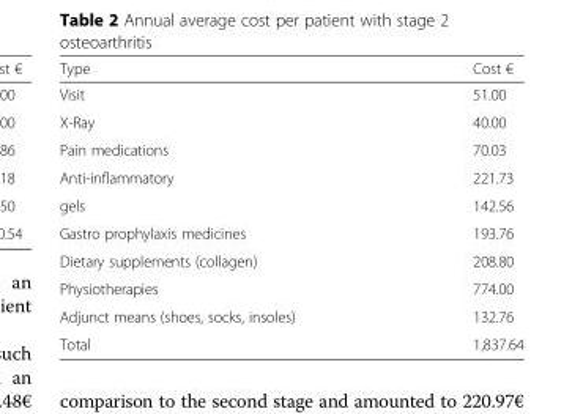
<table><thead><tr><td>Type</td><td>Cost €</td></tr></thead><tbody><tr><td>Visit</td><td>51.00</td></tr><tr><td>X-Ray</td><td>40.00</td></tr><tr><td>Pain medications</td><td>70.03</td></tr><tr><td>Anti-inflammatory</td><td>221.73</td></tr><tr><td>gels</td><td>142.56</td></tr><tr><td>Gastro prophylaxis medicines</td><td>193.76</td></tr><tr><td>Dietary supplements (collagen)</td><td>208.80</td></tr><tr><td>Physiotherapies</td><td>774.00</td></tr><tr><td>Adjunct means (shoes, socks, insoles)</td><td>132.76</td></tr><tr><td>Total</td><td>1,837.64</td></tr></tbody></table>